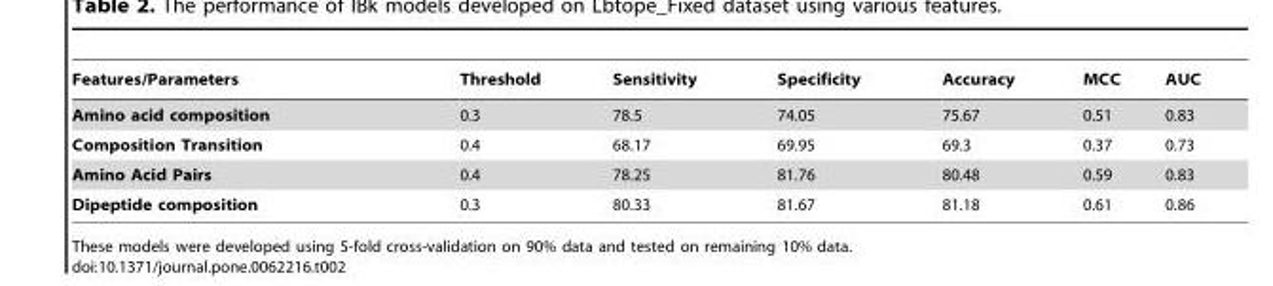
<table><thead><tr><td>Features/Parameters</td><td>Threshold</td><td>Sensitivity</td><td>Specificity</td><td>Accuracy</td><td>MCC</td><td>AUC</td></tr></thead><tbody><tr><td>Amino acid composition</td><td>0.3</td><td>78.5</td><td>74.05</td><td>75.67</td><td>0.51</td><td>0.83</td></tr><tr><td>Composition Transition</td><td>0.4</td><td>68.17</td><td>69.95</td><td>69.3</td><td>0.37</td><td>0.73</td></tr><tr><td>Amino Acid Pairs</td><td>0.4</td><td>78.25</td><td>81.76</td><td>80.48</td><td>0.59</td><td>0.83</td></tr><tr><td>Dipeptide composition</td><td>0.3</td><td>80.33</td><td>81.67</td><td>81.18</td><td>0.61</td><td>0.86</td></tr></tbody></table>